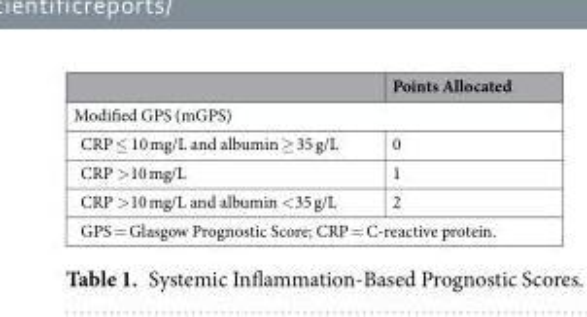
<table><thead><tr><td></td><td>Points Allocated</td></tr></thead><tbody><tr><td colspan="2">Modified GPS (mGPS)</td></tr><tr><td>CRP ≤ 10 mg/L and albumin ≥ 35 g/L</td><td>0</td></tr><tr><td>CRP &gt;10 mg/L</td><td>1</td></tr><tr><td>CRP &gt;10 mg/L and albumin &lt;35 g/L</td><td>2</td></tr><tr><td colspan="2">GPS = Glasgow Prognostic Score; CRP = C-reactive protein.</td></tr></tbody></table>